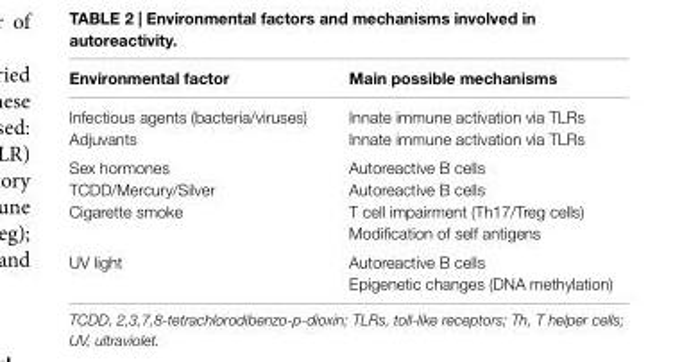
<table><thead><tr><td>environmental factor</td><td>Main possible mechanisms</td></tr></thead><tbody><tr><td>Infectious agents (bacteria/viruses)</td><td>Innate immune activation via TLRs</td></tr><tr><td>Adjuvants</td><td>Innate immune activation via TLRs</td></tr><tr><td>Sex hormones</td><td>Autoreactive B cells</td></tr><tr><td>TCDD/Mercury/Silver</td><td>Autoreactive B cells</td></tr><tr><td rowspan="2">Cigarette smoke</td><td>T cell impairment (Th17/Treg cells)</td></tr><tr><td>Modification of self antigens</td></tr><tr><td rowspan="2">UV light</td><td>Autoreactive B cells</td></tr><tr><td>Epigenetic changes (DNA methylation)</td></tr></tbody></table>